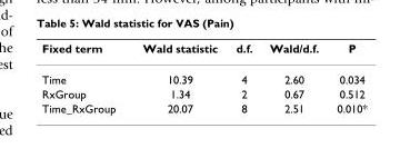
<table><thead><tr><td>Fixed term</td><td>Wald statistic</td><td>d.f.</td><td>Wald/d.f.</td><td>P</td></tr></thead><tbody><tr><td>Time</td><td>10.39</td><td>4</td><td>2.60</td><td>0.034</td></tr><tr><td>RxGroup</td><td>1.34</td><td>2</td><td>0.67</td><td>0.512</td></tr><tr><td>Time_RxGroup</td><td>20.07</td><td>8</td><td>2.51</td><td>0.010*</td></tr></tbody></table>